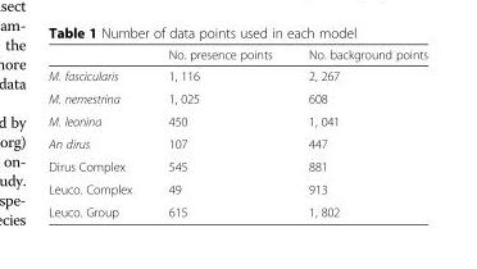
<table><thead><tr><td></td><td>No. presence points</td><td>No. background points</td></tr></thead><tbody><tr><td>M. fascicularis</td><td>1, 116</td><td>2, 267</td></tr><tr><td>M. nemestrina</td><td>1, 025</td><td>608</td></tr><tr><td>M. leonina</td><td>450</td><td>1, 041</td></tr><tr><td>An dirus</td><td>107</td><td>447</td></tr><tr><td>Dirus Complex</td><td>545</td><td>881</td></tr><tr><td>Leuco. Complex</td><td>49</td><td>913</td></tr><tr><td>Leuco. Group</td><td>615</td><td>1, 802</td></tr></tbody></table>